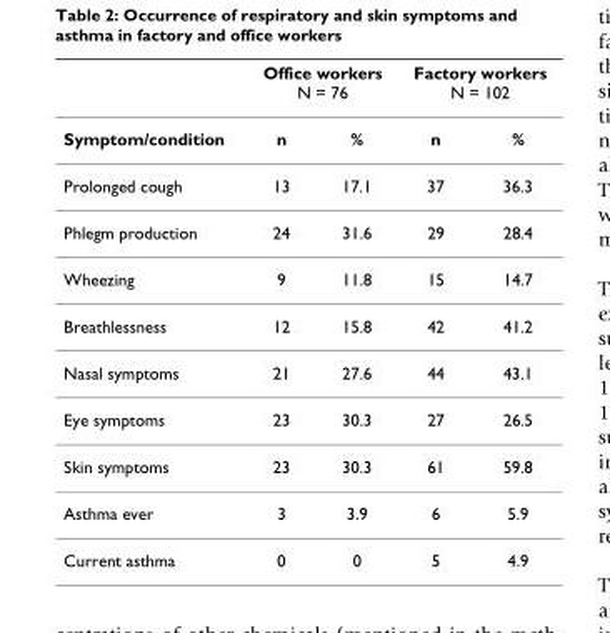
<table><thead><tr><td rowspan="2">Symptom/condition</td><td colspan="2">Office workers N = 76</td><td colspan="2">Factory workers N = 102</td></tr><tr><td>n</td><td>%</td><td>n</td><td>%</td></tr></thead><tbody><tr><td>Prolonged cough</td><td>13</td><td>17.1</td><td>37</td><td>36.3</td></tr><tr><td>Phlegm production</td><td>24</td><td>31.6</td><td>29</td><td>28.4</td></tr><tr><td>Wheezing</td><td>9</td><td>11.8</td><td>15</td><td>14.7</td></tr><tr><td>Breathlessness</td><td>12</td><td>15.8</td><td>42</td><td>41.2</td></tr><tr><td>Nasal symptoms</td><td>21</td><td>27.6</td><td>44</td><td>43.1</td></tr><tr><td>Eye symptoms</td><td>23</td><td>30.3</td><td>27</td><td>26.5</td></tr><tr><td>Skin symptoms</td><td>23</td><td>30.3</td><td>61</td><td>59.8</td></tr><tr><td>Asthma ever</td><td>3</td><td>3.9</td><td>6</td><td>5.9</td></tr><tr><td>Current asthma</td><td>0</td><td>0</td><td>5</td><td>4.9</td></tr></tbody></table>